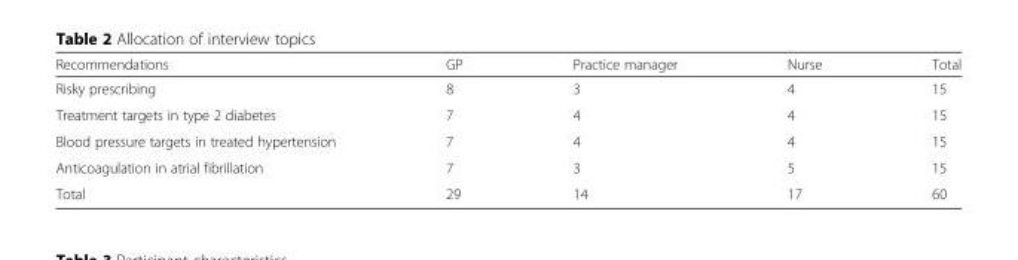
<table><thead><tr><td>Recommendations</td><td>GP</td><td>Practice manager</td><td>Nurse</td><td>Total</td></tr></thead><tbody><tr><td>Risky prescribing</td><td>8</td><td>3</td><td>4</td><td>15</td></tr><tr><td>Treatment targets in type 2 diabetes</td><td>7</td><td>4</td><td>4</td><td>15</td></tr><tr><td>Blood pressure targets in treated hypertension</td><td>7</td><td>4</td><td>4</td><td>15</td></tr><tr><td>Anticoagulation in atrial fibrillation</td><td>7</td><td>3</td><td>5</td><td>15</td></tr><tr><td>Total</td><td>29</td><td>14</td><td>17</td><td>60</td></tr></tbody></table>